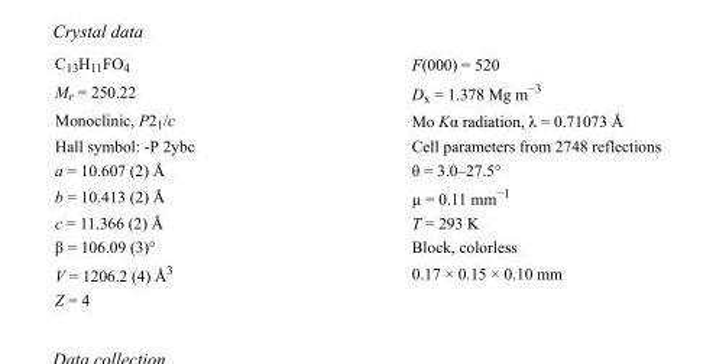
<table><tbody><tr><td>C<sub>13</sub>H<sub>11</sub>FO<sub>4</sub></td><td>F(000) = 520</td></tr><tr><td>M<sub>r</sub> = 250.22</td><td>D<sub>x</sub> = 1.378 Mg m<sup>−3</sup></td></tr><tr><td>Monoclinic, P2<sub>1</sub>/c</td><td>Mo Kα radiation, λ = 0.71073 Å</td></tr><tr><td>Hall symbol: -P 2ybc</td><td>Cell parameters from 2748 reflections</td></tr><tr><td>a = 10.607 (2) Å</td><td>θ = 3.0–27.5°</td></tr><tr><td>b = 10.413 (2) Å</td><td>µ = 0.11 mm<sup>−1</sup></td></tr><tr><td>c = 11.366 (2) Å</td><td>T = 293 K</td></tr><tr><td>β = 106.09 (3)°</td><td>Block, colorless</td></tr><tr><td>V = 1206.2 (4) Å<sup>3</sup></td><td>0.17 × 0.15 × 0.10 mm</td></tr><tr><td>Z = 4</td><td></td></tr></tbody></table>